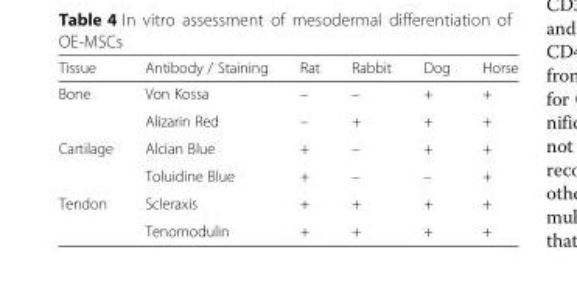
<table><thead><tr><td>Tissue</td><td>Antibody / Staining</td><td>Rat</td><td>Rabbit</td><td>Dog</td><td>Horse</td></tr></thead><tbody><tr><td rowspan="2">Bone</td><td>Von Kossa</td><td>–</td><td>–</td><td>+</td><td>+</td></tr><tr><td>Alizarin Red</td><td>–</td><td>+</td><td>+</td><td>+</td></tr><tr><td rowspan="2">Cartilage</td><td>Alcian Blue</td><td>+</td><td>–</td><td>+</td><td>+</td></tr><tr><td>Toluidine Blue</td><td>+</td><td>–</td><td>–</td><td>+</td></tr><tr><td rowspan="2">Tendon</td><td>Scleraxis</td><td>+</td><td>+</td><td>+</td><td>+</td></tr><tr><td>Tenomodulin</td><td>+</td><td>+</td><td>+</td><td>+</td></tr></tbody></table>